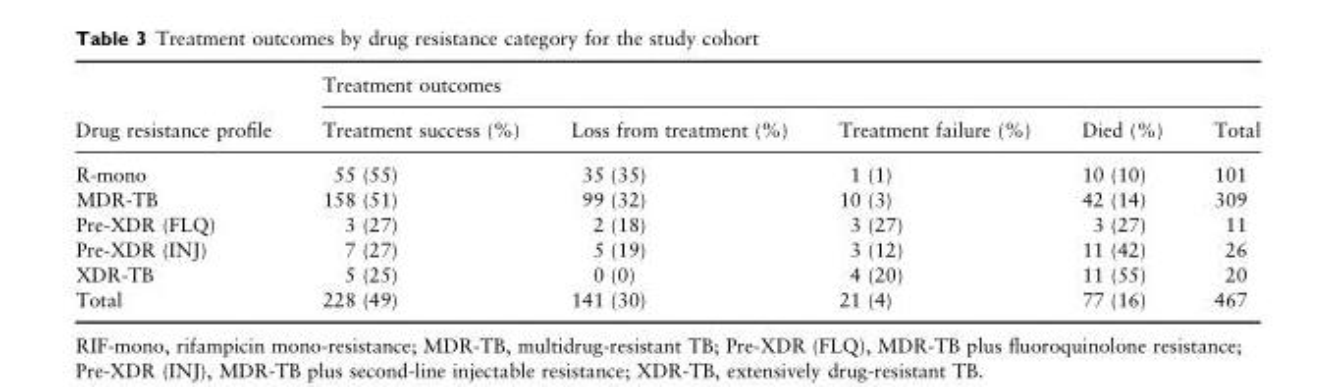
<table><thead><tr><td rowspan="2">Drug resistance profile</td><td colspan="5">Treatment outcomes</td></tr><tr><td>Treatment success (%)</td><td>Loss from treatment (%)</td><td>Treatment failure (%)</td><td>Died (%)</td><td>Total</td></tr></thead><tbody><tr><td>R-mono</td><td>55 (55)</td><td>35 (35)</td><td>1 (1)</td><td>10 (10)</td><td>101</td></tr><tr><td>MDR-TB</td><td>158 (51)</td><td>99 (32)</td><td>10 (3)</td><td>42 (14)</td><td>309</td></tr><tr><td>Pre-XDR (FLQ)</td><td>3 (27)</td><td>2 (18)</td><td>3 (27)</td><td>3 (27)</td><td>11</td></tr><tr><td>Pre-XDR (INJ)</td><td>7 (27)</td><td>5 (19)</td><td>3 (12)</td><td>11 (42)</td><td>26</td></tr><tr><td>XDR-TB</td><td>5 (25)</td><td>0 (0)</td><td>4 (20)</td><td>11 (55)</td><td>20</td></tr><tr><td>Total</td><td>228 (49)</td><td>141 (30)</td><td>21 (4)</td><td>77 (16)</td><td>467</td></tr></tbody></table>